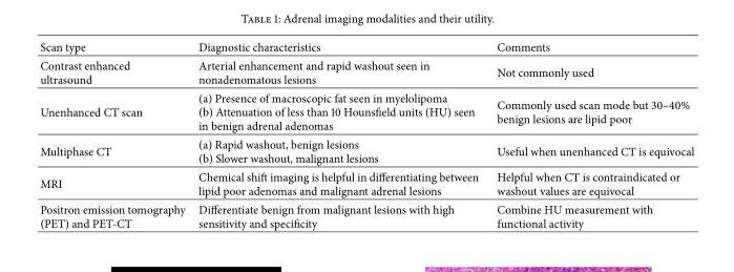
<table><thead><tr><td>Scan type</td><td>Diagnostic characteristics</td><td>Comments</td></tr></thead><tbody><tr><td>Contrast enhanced ultrasound</td><td>Arterial enhancement and rapid washout seen in nonadenomatous lesions</td><td>Not commonly used</td></tr><tr><td>Unenhanced CT scan</td><td>(a) Presence of macroscopic fat seen in myelolipoma (b) Attenuation of less than 10 Hounsfield units (HU) seen in benign adrenal adenomas</td><td>Commonly used scan mode but 30–40% benign lesions are lipid poor</td></tr><tr><td>Multiphase CT</td><td>(a) Rapid washout, benign lesions (b) Slower washout, malignant lesions</td><td>Useful when unenhanced CT is equivocal</td></tr><tr><td>MRI</td><td>Chemical shift imaging is helpful in differentiating between lipid poor adenomas and malignant adrenal lesions</td><td>Helpful when CT is contraindicated or washout values are equivocal</td></tr><tr><td>Positron emission tomography (PET) and PET-CT</td><td>Differentiate benign from malignant lesions with high sensitivity and specificity</td><td>Combine HU measurement with functional activity</td></tr></tbody></table>